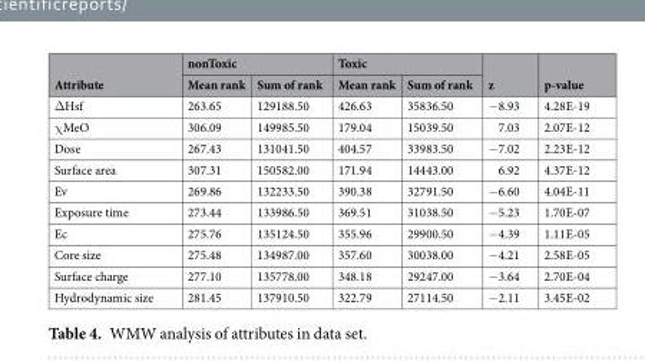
<table><thead><tr><td rowspan="2">Attribute</td><td colspan="2">nonToxic</td><td colspan="2">Toxic</td><td rowspan="2">z</td><td rowspan="2">p-value</td></tr><tr><td>Mean rank</td><td>Sum of rank</td><td>Mean rank</td><td>Sum of rank</td></tr></thead><tbody><tr><td>ΔHsf</td><td>263.65</td><td>129188.50</td><td>426.63</td><td>35836.50</td><td>−8.93</td><td>4.28E-19</td></tr><tr><td>χMeO</td><td>306.09</td><td>149985.50</td><td>179.04</td><td>15039.50</td><td>7.03</td><td>2.07E-12</td></tr><tr><td>Dose</td><td>267.43</td><td>131041.50</td><td>404.57</td><td>33983.50</td><td>−7.02</td><td>2.23E-12</td></tr><tr><td>Surface area</td><td>307.31</td><td>150582.00</td><td>171.94</td><td>14443.00</td><td>6.92</td><td>4.37E-12</td></tr><tr><td>Ev</td><td>269.86</td><td>132233.50</td><td>390.38</td><td>32791.50</td><td>−6.60</td><td>4.04E-11</td></tr><tr><td>Exposure time</td><td>273.44</td><td>133986.50</td><td>369.51</td><td>31038.50</td><td>−5.23</td><td>1.70E-07</td></tr><tr><td>Ec</td><td>275.76</td><td>135124.50</td><td>355.96</td><td>29900.50</td><td>−4.39</td><td>1.11E-05</td></tr><tr><td>Core size</td><td>275.48</td><td>134987.00</td><td>357.60</td><td>30038.00</td><td>−4.21</td><td>2.58E-05</td></tr><tr><td>Surface charge</td><td>277.10</td><td>135778.00</td><td>348.18</td><td>29247.00</td><td>−3.64</td><td>2.70E-04</td></tr><tr><td>Hydrodynamic size</td><td>281.45</td><td>137910.50</td><td>322.79</td><td>27114.50</td><td>−2.11</td><td>3.45E-02</td></tr></tbody></table>